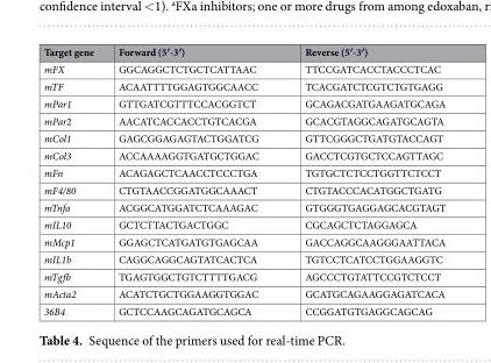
<table><thead><tr><td>Target gene</td><td>Forward (5′-3′)</td><td>Reverse (5′-3′)</td></tr></thead><tbody><tr><td>mFX</td><td>GGCAGGCTCTGCTCATTAAC</td><td>TTCCGATCACCTACCCTCAC</td></tr><tr><td>mTF</td><td>ACAATTTTGGAGTGGCAACC</td><td>TCACGATCTCGTCTGTGAGG</td></tr><tr><td>mPar1</td><td>GTTGATCGTTTCCACGGTCT</td><td>GCAGACGATGAAGATGCAGA</td></tr><tr><td>mPar2</td><td>AACATCACCACCTGTCACGA</td><td>GCACGTAGGCAGATGCAGTA</td></tr><tr><td>mCol1</td><td>GAGCGGAGAGTACTGGATCG</td><td>GTTCGGGCTGATGTACCAGT</td></tr><tr><td>mCol3</td><td>ACCAAAAGGTGATGCTGGAC</td><td>GACCTCGTGCTCCAGTTAGC</td></tr><tr><td>mFn</td><td>ACAGAGCTCAACCTCCCTGA</td><td>TGTGCTCTCCTGGTTCTCCT</td></tr><tr><td>mF4/80</td><td>CTGTAACCGGATGGCAAACT</td><td>CTGTACCCACATGGCTGATG</td></tr><tr><td>mTnfa</td><td>ACGGCATGGATCTCAAAGAC</td><td>GTGGGTGAGGAGCACGTAGT</td></tr><tr><td>mIL10</td><td>GCTCTTACTGACTGGC</td><td>CGCAGCTCTAGGAGCA</td></tr><tr><td>mMcp1</td><td>GGAGCTCATGATGTGAGCAA</td><td>GACCAGGCAAGGGAATTACA</td></tr><tr><td>mIL1b</td><td>CAGGCAGGCAGTATCACTCA</td><td>TGTCCTCATCCTGGAAGGTC</td></tr><tr><td>mTgfb</td><td>TGAGTGGCTGTCTTTTGACG</td><td>AGCCCTGTATTCCGTCTCCT</td></tr><tr><td>mActa2</td><td>ACATCTGCTGGAAGGTGGAC</td><td>GCATGCAGAAGGAGATCACA</td></tr><tr><td>36B4</td><td>GCTCCAAGCAGATGCAGCA</td><td>CCGGATGTGAGGCAGCAG</td></tr></tbody></table>